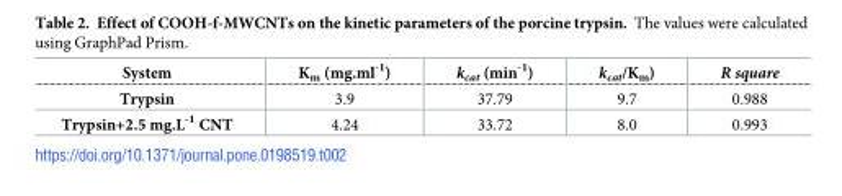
<table><thead><tr><td>System</td><td>K<sub>m</sub> (mg.ml<sup>-1</sup>)</td><td>k<sub>cat</sub> (min<sup>-1</sup>)</td><td>k<sub>cat</sub>/K<sub>m</sub>)</td><td>R square</td></tr></thead><tbody><tr><td>Trypsin</td><td>3.9</td><td>37.79</td><td>9.7</td><td>0.988</td></tr><tr><td>Trypsin+2.5 mg.L<sup>-1</sup> CNT</td><td>4.24</td><td>33.72</td><td>8.0</td><td>0.993</td></tr></tbody></table>